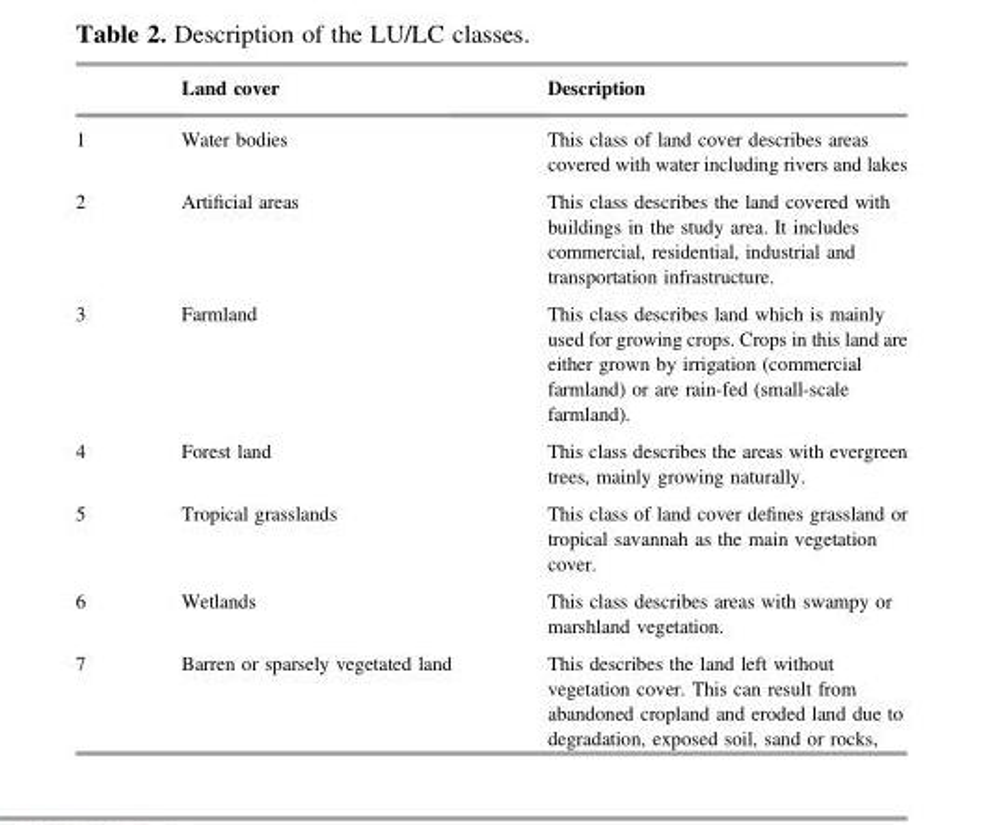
<table><thead><tr><td></td><td>Land cover</td><td>Description</td></tr></thead><tbody><tr><td>1</td><td>Water bodies</td><td>This class of land cover describes areas covered with water including rivers and lakes</td></tr><tr><td>2</td><td>Artificial areas</td><td>This class describes the land covered with buildings in the study area. It includes commercial, residential, industrial and transportation infrastructure.</td></tr><tr><td>3</td><td>Farmland</td><td>This class describes land which is mainly used for growing crops. Crops in this land are either grown by irrigation (commercial farmland) or are rain-fed (small-scale farmland).</td></tr><tr><td>4</td><td>Forest land</td><td>This class describes the areas with evergreen trees, mainly growing naturally.</td></tr><tr><td>5</td><td>Tropical grasslands</td><td>This class of land cover defines grassland or tropical savannah as the main vegetation cover.</td></tr><tr><td>6</td><td>Wetlands</td><td>This class describes areas with swampy or marshland vegetation.</td></tr><tr><td>7</td><td>Barren or sparsely vegetated land</td><td>This describes the land left without vegetation cover. This can result from abandoned cropland and eroded land due to degradation, exposed soil, sand or rocks,</td></tr></tbody></table>